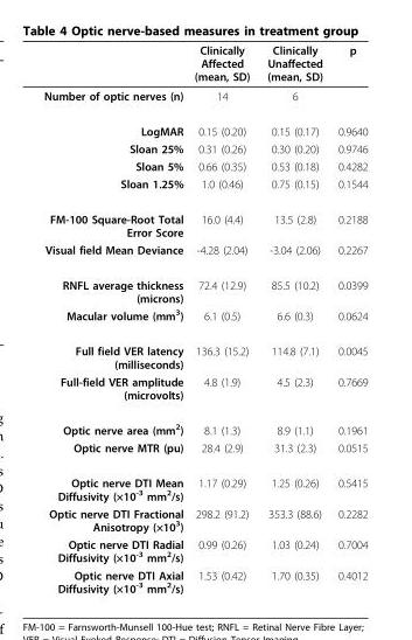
<table><thead><tr><td></td><td>Clinically Affected (mean, SD)</td><td>Clinically Unaffected (mean, SD)</td><td>p</td></tr></thead><tbody><tr><td>Number of optic nerves (n)</td><td>14</td><td>6</td><td></td></tr><tr><td>LogMAR</td><td>0.15 (0.20)</td><td>0.15 (0.17)</td><td>0.9640</td></tr><tr><td>Sloan 25%</td><td>0.31 (0.26)</td><td>0.30 (0.20)</td><td>0.9746</td></tr><tr><td>Sloan 5%</td><td>0.66 (0.35)</td><td>0.53 (0.18)</td><td>0.4282</td></tr><tr><td>Sloan 1.25%</td><td>1.0 (0.46)</td><td>0.75 (0.15)</td><td>0.1544</td></tr><tr><td>FM-100 Square-Root Total Error Score</td><td>16.0 (4.4)</td><td>13.5 (2.8)</td><td>0.2188</td></tr><tr><td>Visual field Mean Deviance</td><td>-4.28 (2.04)</td><td>-3.04 (2.06)</td><td>0.2267</td></tr><tr><td>RNFL average thickness (microns)</td><td>72.4 (12.9)</td><td>85.5 (10.2)</td><td>0.0399</td></tr><tr><td>Macular volume (mm<sup>3</sup>)</td><td>6.1 (0.5)</td><td>6.6 (0.3)</td><td>0.0624</td></tr><tr><td>Full field VER latency (milliseconds)</td><td>136.3 (15.2)</td><td>114.8 (7.1)</td><td>0.0045</td></tr><tr><td>Full-field VER amplitude (microvolts)</td><td>4.8 (1.9)</td><td>4.5 (2.3)</td><td>0.7669</td></tr><tr><td>Optic nerve area (mm<sup>2</sup>)</td><td>8.1 (1.3)</td><td>8.9 (1.1)</td><td>0.1961</td></tr><tr><td>Optic nerve MTR (pu)</td><td>28.4 (2.9)</td><td>31.3 (2.3)</td><td>0.0515</td></tr><tr><td>Optic nerve DTI Mean Diffusivity (×10<sup>-3</sup> mm<sup>2</sup>/s)</td><td>1.17 (0.29)</td><td>1.25 (0.26)</td><td>0.5415</td></tr><tr><td>Optic nerve DTI Fractional Anisotropy (×10<sup>3</sup>)</td><td>298.2 (91.2)</td><td>353.3 (88.6)</td><td>0.2282</td></tr><tr><td>Optic nerve DTI Radial Diffusivity (×10<sup>-3</sup> mm<sup>2</sup>/s)</td><td>0.99 (0.26)</td><td>1.03 (0.24)</td><td>0.7004</td></tr><tr><td>Optic nerve DTI Axial Diffusivity (×10<sup>-3</sup> mm<sup>2</sup>/s)</td><td>1.53 (0.42)</td><td>1.70 (0.35)</td><td>0.4012</td></tr></tbody></table>